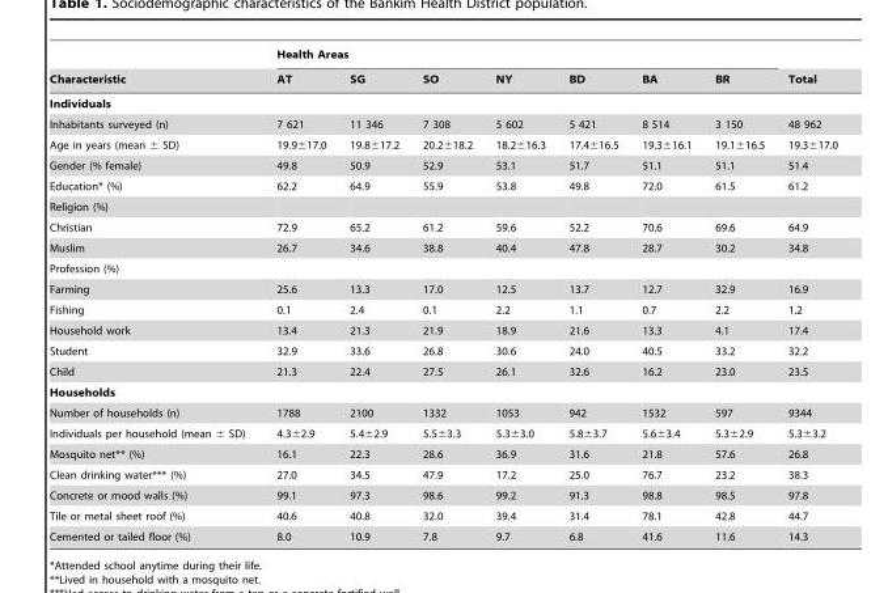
<table><thead><tr><td rowspan="2">Characteristic</td><td colspan="7">Health Areas</td><td rowspan="2">Total</td></tr><tr><td>AT</td><td>SG</td><td>SO</td><td>NY</td><td>BD</td><td>BA</td><td>BR</td></tr></thead><tbody><tr><td colspan="9">Individuals</td></tr><tr><td>Inhabitants surveyed (n)</td><td>7 621</td><td>11 346</td><td>7 308</td><td>5 602</td><td>5 421</td><td>8 514</td><td>3 150</td><td>48 962</td></tr><tr><td>Age in years (mean ± SD)</td><td>19.9±17.0</td><td>19.8±17.2</td><td>20.2±18.2</td><td>18.2±16.3</td><td>17.4±16.5</td><td>19.3±16.1</td><td>19.1±16.5</td><td>19.3±17.0</td></tr><tr><td>Gender (% female)</td><td>49.8</td><td>50.9</td><td>52.9</td><td>53.1</td><td>51.7</td><td>51.1</td><td>51.1</td><td>51.4</td></tr><tr><td>Education* (%)</td><td>62.2</td><td>64.9</td><td>55.9</td><td>53.8</td><td>49.8</td><td>72.0</td><td>61.5</td><td>61.2</td></tr><tr><td colspan="9">Religion (%)</td></tr><tr><td>Christian</td><td>72.9</td><td>65.2</td><td>61.2</td><td>59.6</td><td>52.2</td><td>70.6</td><td>69.6</td><td>64.9</td></tr><tr><td>Muslim</td><td>26.7</td><td>34.6</td><td>38.8</td><td>40.4</td><td>47.8</td><td>28.7</td><td>30.2</td><td>34.8</td></tr><tr><td colspan="9">Profession (%)</td></tr><tr><td>Farming</td><td>25.6</td><td>13.3</td><td>17.0</td><td>12.5</td><td>13.7</td><td>12.7</td><td>32.9</td><td>16.9</td></tr><tr><td>Fishing</td><td>0.1</td><td>2.4</td><td>0.1</td><td>2.2</td><td>1.1</td><td>0.7</td><td>2.2</td><td>1.2</td></tr><tr><td>Household work</td><td>13.4</td><td>21.3</td><td>21.9</td><td>18.9</td><td>21.6</td><td>13.3</td><td>4.1</td><td>17.4</td></tr><tr><td>Student</td><td>32.9</td><td>33.6</td><td>26.8</td><td>30.6</td><td>24.0</td><td>40.5</td><td>33.2</td><td>32.2</td></tr><tr><td>Child</td><td>21.3</td><td>22.4</td><td>27.5</td><td>26.1</td><td>32.6</td><td>16.2</td><td>23.0</td><td>23.5</td></tr><tr><td colspan="9">Households</td></tr><tr><td>Number of households (n)</td><td>1788</td><td>2100</td><td>1332</td><td>1053</td><td>942</td><td>1532</td><td>597</td><td>9344</td></tr><tr><td>Individuals per household (mean ± SD)</td><td>4.3±2.9</td><td>5.4±2.9</td><td>5.5±3.3</td><td>5.3±3.0</td><td>5.8±3.7</td><td>5.6±3.4</td><td>5.3±2.9</td><td>5.3±3.2</td></tr><tr><td>Mosquito net** (%)</td><td>16.1</td><td>22.3</td><td>28.6</td><td>36.9</td><td>31.6</td><td>21.8</td><td>57.6</td><td>26.8</td></tr><tr><td>Clean drinking water*** (%)</td><td>27.0</td><td>34.5</td><td>47.9</td><td>17.2</td><td>25.0</td><td>76.7</td><td>23.2</td><td>38.3</td></tr><tr><td>Concrete or mood walls (%)</td><td>99.1</td><td>97.3</td><td>98.6</td><td>99.2</td><td>91.3</td><td>98.8</td><td>98.5</td><td>97.8</td></tr><tr><td>Tile or metal sheet roof (%)</td><td>40.6</td><td>40.8</td><td>32.0</td><td>39.4</td><td>31.4</td><td>78.1</td><td>42.8</td><td>44.7</td></tr><tr><td>Cemented or tailed floor (%)</td><td>8.0</td><td>10.9</td><td>7.8</td><td>9.7</td><td>6.8</td><td>41.6</td><td>11.6</td><td>14.3</td></tr></tbody></table>